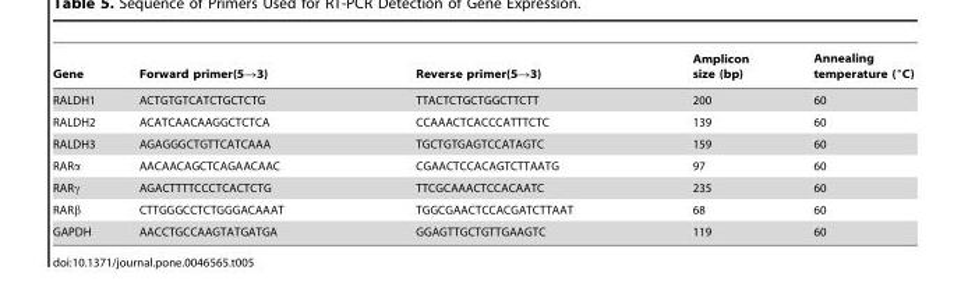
<table><thead><tr><td>Gene</td><td>Forward primer(5→3)</td><td>Reverse primer(5→3)</td><td>Amplicon size (bp)</td><td>Annealing temperature (°C)</td></tr></thead><tbody><tr><td>RALDH1</td><td>ACTGTGTCATCTGCTCTG</td><td>TTACTCTGCTGGCTTCTT</td><td>200</td><td>60</td></tr><tr><td>RALDH2</td><td>ACATCAACAAGGCTCTCA</td><td>CCAAACTCACCCATTTCTC</td><td>139</td><td>60</td></tr><tr><td>RALDH3</td><td>AGAGGGCTGTTCATCAAA</td><td>TGCTGTGAGTCCATAGTC</td><td>159</td><td>60</td></tr><tr><td>RARα</td><td>AACAACAGCTCAGAACAAC</td><td>CGAACTCCACAGTCTTAATG</td><td>97</td><td>60</td></tr><tr><td>RARγ</td><td>AGACTTTTCCCTCACTCTG</td><td>TTCGCAAACTCCACAATC</td><td>235</td><td>60</td></tr><tr><td>RARβ</td><td>CTTGGGCCTCTGGGACAAAT</td><td>TGGCGAACTCCACGATCTTAAT</td><td>68</td><td>60</td></tr><tr><td>GAPDH</td><td>AACCTGCCAAGTATGATGA</td><td>GGAGTTGCTGTTGAAGTC</td><td>119</td><td>60</td></tr></tbody></table>